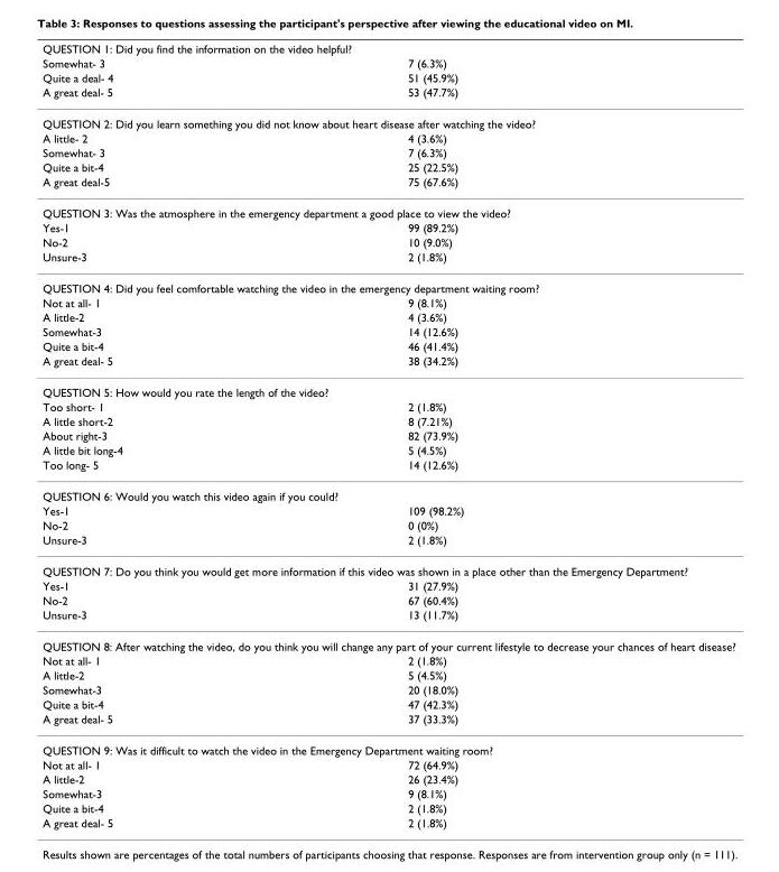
<table><thead><tr><td colspan="2">QUESTION 1: Did you find the information on the video helpful?</td></tr><tr><td rowspan="3">Somewhat- 3 Quite a deal- 4 A great deal- 5</td><td rowspan="3">7 (6.3%) 51 (45.9%) 53 (47.7%)</td></tr><tr></tr><tr></tr></thead><tbody><tr><td colspan="2">QUESTION 2: Did you learn something you did not know about heart disease after watching the video?</td></tr><tr><td>A little- 2</td><td>4 (3.6%)</td></tr><tr><td>Somewhat- 3</td><td>7 (6.3%)</td></tr><tr><td>Quite a bit-4</td><td>25 (22.5%)</td></tr><tr><td>A great deal-5</td><td>75 (67.6%)</td></tr><tr><td colspan="2">QUESTION 3: Was the atmosphere in the emergency department a good place to view the video?</td></tr><tr><td>Yes-1</td><td>99 (89.2%)</td></tr><tr><td>No-2</td><td>10 (9.0%)</td></tr><tr><td>Unsure-3</td><td>2 (1.8%)</td></tr><tr><td colspan="2">QUESTION 4: Did you feel comfortable watching the video in the emergency department waiting room?</td></tr><tr><td>Not at all- 1</td><td>9 (8.1%)</td></tr><tr><td>A little-2</td><td>4 (3.6%)</td></tr><tr><td>Somewhat-3</td><td>14 (12.6%)</td></tr><tr><td>Quite a bit-4</td><td>46 (41.4%)</td></tr><tr><td>A great deal- 5</td><td>38 (34.2%)</td></tr><tr><td colspan="2">QUESTION 5: How would you rate the length of the video?</td></tr><tr><td>Too short- 1</td><td>2 (1.8%)</td></tr><tr><td>A little short-2</td><td>8 (7.21%)</td></tr><tr><td>About right-3</td><td>82 (73.9%)</td></tr><tr><td>A little bit long-4</td><td>5 (4.5%)</td></tr><tr><td>Too long- 5</td><td>14 (12.6%)</td></tr><tr><td colspan="2">QUESTION 6: Would you watch this video again if you could?</td></tr><tr><td>Yes-1</td><td>109 (98.2%)</td></tr><tr><td>No-2</td><td>0 (0%)</td></tr><tr><td>Unsure-3</td><td>2 (1.8%)</td></tr><tr><td colspan="2">QUESTION 7: Do you think you would get more information if this video was shown in a place other than the Emergency Department?</td></tr><tr><td>Yes-1</td><td>31 (27.9%)</td></tr><tr><td>No-2</td><td>67 (60.4%)</td></tr><tr><td>Unsure-3</td><td>13 (11.7%)</td></tr><tr><td colspan="2">QUESTION 8: After watching the video, do you think you will change any part of your current lifestyle to decrease your chances of heart disease?</td></tr><tr><td>Not at all- 1</td><td>2 (1.8%)</td></tr><tr><td>A little-2</td><td>5 (4.5%)</td></tr><tr><td>Somewhat-3</td><td>20 (18.0%)</td></tr><tr><td>Quite a bit-4</td><td>47 (42.3%)</td></tr><tr><td>A great deal- 5</td><td>37 (33.3%)</td></tr><tr><td colspan="2">QUESTION 9: Was it difficult to watch the video in the Emergency Department waiting room?</td></tr><tr><td>Not at all- 1</td><td>72 (64.9%)</td></tr><tr><td>A little-2</td><td>26 (23.4%)</td></tr><tr><td>Somewhat-3</td><td>9 (8.1%)</td></tr><tr><td>Quite a bit-4</td><td>2 (1.8%)</td></tr><tr><td>A great deal- 5</td><td>2 (1.8%)</td></tr></tbody></table>